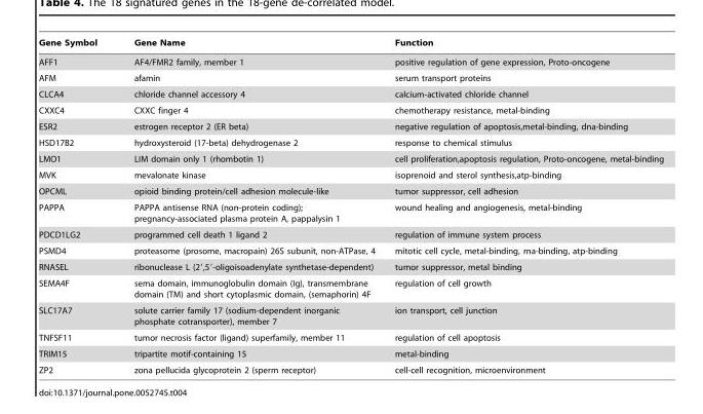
<table><thead><tr><td>Gene Symbol</td><td>Gene Name</td><td>Function</td></tr></thead><tbody><tr><td>AFF1</td><td>AF4/FMR2 family, member 1</td><td>positive regulation of gene expression, Proto-oncogene</td></tr><tr><td>AFM</td><td>afamin</td><td>serum transport proteins</td></tr><tr><td>CLCA4</td><td>chloride channel accessory 4</td><td>calcium-activated chloride channel</td></tr><tr><td>CXXC4</td><td>CXXC finger 4</td><td>chemotherapy resistance, metal-binding</td></tr><tr><td>ESR2</td><td>estrogen receptor 2 (ER beta)</td><td>negative regulation of apoptosis,metal-binding, dna-binding</td></tr><tr><td>HSD17B2</td><td>hydroxysteroid (17-beta) dehydrogenase 2</td><td>response to chemical stimulus</td></tr><tr><td>LMO1</td><td>LIM domain only 1 (rhombotin 1)</td><td>cell proliferation,apoptosis regulation, Proto-oncogene, metal-binding</td></tr><tr><td>MVK</td><td>mevalonate kinase</td><td>isoprenoid and sterol synthesis,atp-binding</td></tr><tr><td>OPCML</td><td>opioid binding protein/cell adhesion molecule-like</td><td>tumor suppressor, cell adhesion</td></tr><tr><td>PAPPA</td><td>PAPPA antisense RNA (non-protein coding); pregnancy-associated plasma protein A, pappalysin 1</td><td>wound healing and angiogenesis, metal-binding</td></tr><tr><td>PDCD1LG2</td><td>programmed cell death 1 ligand 2</td><td>regulation of immune system process</td></tr><tr><td>PSMD4</td><td>proteasome (prosome, macropain) 26S subunit, non-ATPase, 4</td><td>mitotic cell cycle, metal-binding, rna-binding, atp-binding</td></tr><tr><td>RNASEL</td><td>ribonuclease L (2′,5′-oligoisoadenylate synthetase-dependent)</td><td>tumor suppressor, metal binding</td></tr><tr><td>SEMA4F</td><td>sema domain, immunoglobulin domain (Ig), transmembrane domain (TM) and short cytoplasmic domain, (semaphorin) 4F</td><td>regulation of cell growth</td></tr><tr><td>SLC17A7</td><td>solute carrier family 17 (sodium-dependent inorganic phosphate cotransporter), member 7</td><td>ion transport, cell junction</td></tr><tr><td>TNFSF11</td><td>tumor necrosis factor (ligand) superfamily, member 11</td><td>regulation of cell apoptosis</td></tr><tr><td>TRIM15</td><td>tripartite motif-containing 15</td><td>metal-binding</td></tr><tr><td>ZP2</td><td>zona pellucida glycoprotein 2 (sperm receptor)</td><td>cell-cell recognition, microenvironment</td></tr></tbody></table>